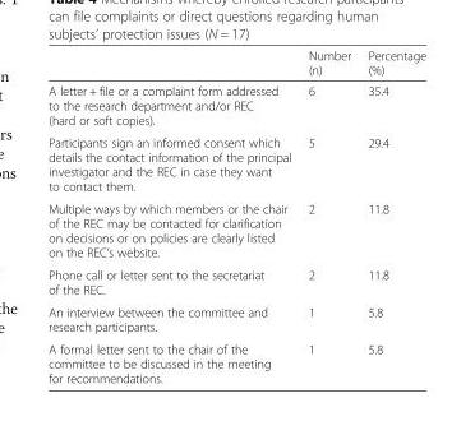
<table><thead><tr><td></td><td>Number (n)</td><td>Percentage (%)</td></tr></thead><tbody><tr><td>A letter + file or a complaint form addressed to the research department and/or REC (hard or soft copies).</td><td>6</td><td>35.4</td></tr><tr><td>Participants sign an informed consent which details the contact information of the principal investigator and the REC in case they want to contact them.</td><td>5</td><td>29.4</td></tr><tr><td>Multiple ways by which members or the chair of the REC may be contacted for clarification on decisions or on policies are clearly listed on the REC’s website.</td><td>2</td><td>11.8</td></tr><tr><td>Phone call or letter sent to the secretariat of the REC.</td><td>2</td><td>11.8</td></tr><tr><td>An interview between the committee and research participants.</td><td>1</td><td>5.8</td></tr><tr><td>A formal letter sent to the chair of the committee to be discussed in the meeting for recommendations.</td><td>1</td><td>5.8</td></tr></tbody></table>